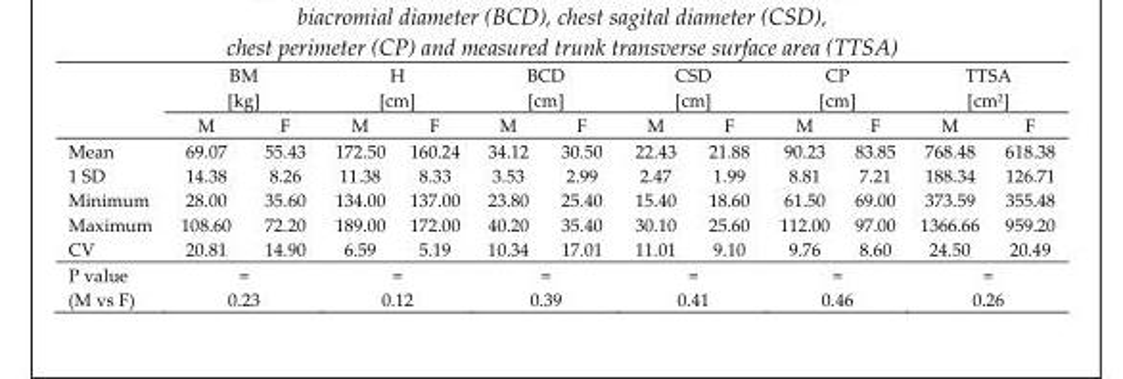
<table><thead><tr><td rowspan="2"></td><td colspan="2">BM [kg]</td><td colspan="2">H [cm]</td><td colspan="2">BCD [cm]</td><td colspan="2">CSD [cm]</td><td colspan="2">CP [cm]</td><td colspan="2">TTSA [cm<sup>2</sup>]</td></tr><tr><td>M</td><td>F</td><td>M</td><td>F</td><td>M</td><td>F</td><td>M</td><td>F</td><td>M</td><td>F</td><td>M</td><td>F</td></tr></thead><tbody><tr><td>Mean</td><td>69.07</td><td>55.43</td><td>172.50</td><td>160.24</td><td>34.12</td><td>30.50</td><td>22.43</td><td>21.88</td><td>90.23</td><td>83.85</td><td>768.48</td><td>618.38</td></tr><tr><td>1 SD</td><td>14.38</td><td>8.26</td><td>11.38</td><td>8.33</td><td>3.53</td><td>2.99</td><td>2.47</td><td>1.99</td><td>8.81</td><td>7.21</td><td>188.34</td><td>126.71</td></tr><tr><td>Minimum</td><td>28.00</td><td>35.60</td><td>134.00</td><td>137.00</td><td>23.80</td><td>25.40</td><td>15.40</td><td>18.60</td><td>61.50</td><td>69.00</td><td>373.59</td><td>355.48</td></tr><tr><td>Maximum</td><td>108.60</td><td>72.20</td><td>189.00</td><td>172.00</td><td>40.20</td><td>35.40</td><td>30.10</td><td>25.60</td><td>112.00</td><td>97.00</td><td>1366.66</td><td>959.20</td></tr><tr><td>CV</td><td>20.81</td><td>14.90</td><td>6.59</td><td>5.19</td><td>10.34</td><td>17.01</td><td>11.01</td><td>9.10</td><td>9.76</td><td>8.60</td><td>24.50</td><td>20.49</td></tr><tr><td>P value (M vs F)</td><td colspan="2">= 0.23</td><td colspan="2">= 0.12</td><td colspan="2">= 0.39</td><td colspan="2">= 0.41</td><td colspan="2">= 0.46</td><td colspan="2">= 0.26</td></tr></tbody></table>